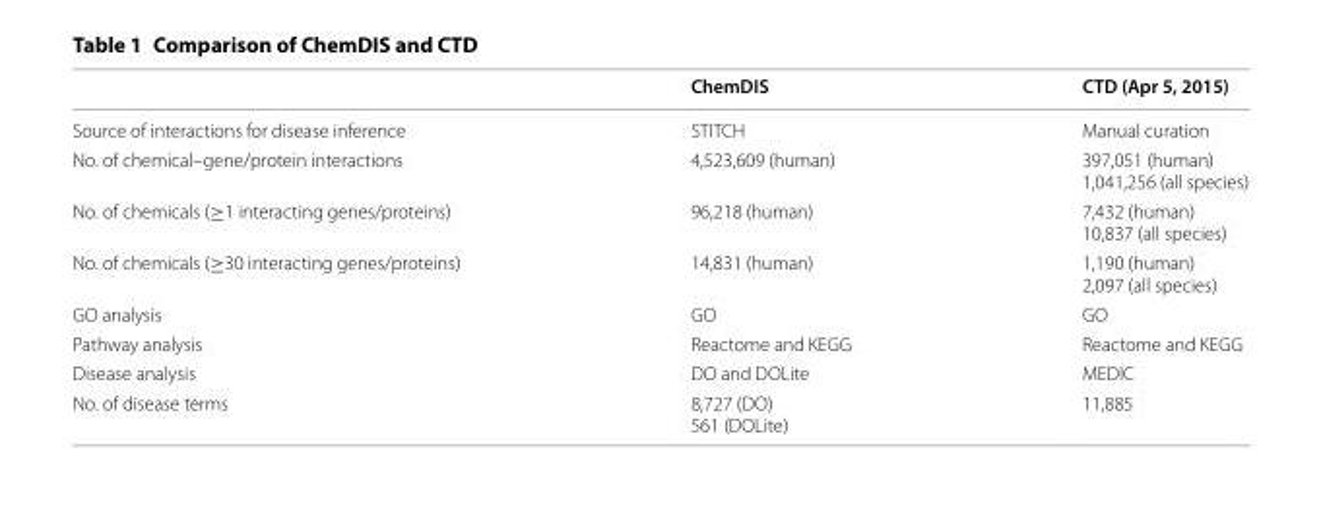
<table><thead><tr><td></td><td>ChemDIS</td><td>CTD (Apr 5, 2015)</td></tr></thead><tbody><tr><td>Source of interactions for disease inference</td><td>STITCH</td><td>Manual curation</td></tr><tr><td>No. of chemical–gene/protein interactions</td><td>4,523,609 (human)</td><td>397,051 (human) 1,041,256 (all species)</td></tr><tr><td>No. of chemicals (≥1 interacting genes/proteins)</td><td>96,218 (human)</td><td>7,432 (human) 10,837 (all species)</td></tr><tr><td>No. of chemicals (≥30 interacting genes/proteins)</td><td>14,831 (human)</td><td>1,190 (human) 2,097 (all species)</td></tr><tr><td>GO analysis</td><td>GO</td><td>GO</td></tr><tr><td>Pathway analysis</td><td>Reactome and KEGG</td><td>Reactome and KEGG</td></tr><tr><td>Disease analysis</td><td>DO and DOLite</td><td>MEDIC</td></tr><tr><td>No. of disease terms</td><td>8,727 (DO) 561 (DOLite)</td><td>11,885</td></tr></tbody></table>